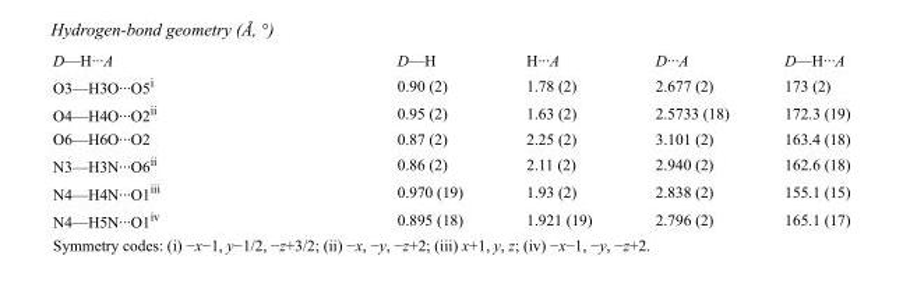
<table><tbody><tr><td>D—H···A</td><td>D—H</td><td>H···A</td><td>D···A</td><td>D—H···A</td></tr><tr><td>O3—H3O···O5<sup>i</sup></td><td>0.90 (2)</td><td>1.78 (2)</td><td>2.677 (2)</td><td>173 (2)</td></tr><tr><td>O4—H4O···O2<sup>ii</sup></td><td>0.95 (2)</td><td>1.63 (2)</td><td>2.5733 (18)</td><td>172.3 (19)</td></tr><tr><td>O6—H6O···O2</td><td>0.87 (2)</td><td>2.25 (2)</td><td>3.101 (2)</td><td>163.4 (18)</td></tr><tr><td>N3—H3N···O6<sup>ii</sup></td><td>0.86 (2)</td><td>2.11 (2)</td><td>2.940 (2)</td><td>162.6 (18)</td></tr><tr><td>N4—H4N···O1<sup>iii</sup></td><td>0.970 (19)</td><td>1.93 (2)</td><td>2.838 (2)</td><td>155.1 (15)</td></tr><tr><td>N4—H5N···O1<sup>iv</sup></td><td>0.895 (18)</td><td>1.921 (19)</td><td>2.796 (2)</td><td>165.1 (17)</td></tr></tbody></table>